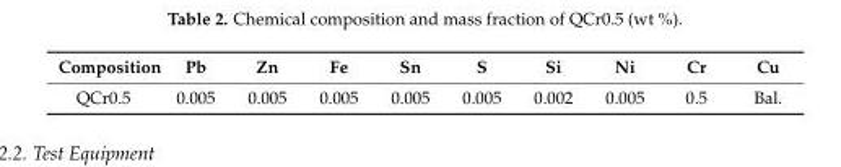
<table><thead><tr><td>Composition</td><td>Pb</td><td>Zn</td><td>Fe</td><td>Sn</td><td>S</td><td>Si</td><td>Ni</td><td>Cr</td><td>Cu</td></tr></thead><tbody><tr><td>QCr0.5</td><td>0.005</td><td>0.005</td><td>0.005</td><td>0.005</td><td>0.005</td><td>0.002</td><td>0.005</td><td>0.5</td><td>Bal.</td></tr></tbody></table>